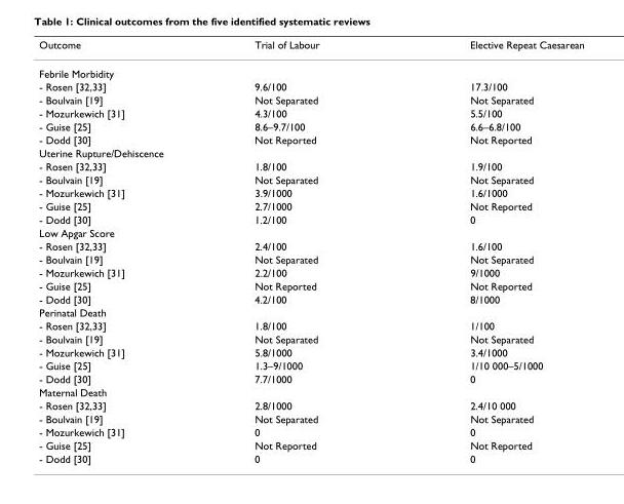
<table><thead><tr><td>Outcome</td><td>Trial of Labour</td><td>Elective Repeat Caesarean</td></tr></thead><tbody><tr><td colspan="3">Febrile Morbidity</td></tr><tr><td>- Rosen [32,33]</td><td>9.6/100</td><td>17.3/100</td></tr><tr><td>- Boulvain [19]</td><td>Not Separated</td><td>Not Separated</td></tr><tr><td>- Mozurkewich [31]</td><td>4.3/100</td><td>5.5/100</td></tr><tr><td>- Guise [25]</td><td>8.6–9.7/100</td><td>6.6–6.8/100</td></tr><tr><td>- Dodd [30]</td><td>Not Reported</td><td>Not Reported</td></tr><tr><td colspan="3">Uterine Rupture/Dehiscence</td></tr><tr><td>- Rosen [32,33]</td><td>1.8/100</td><td>1.9/100</td></tr><tr><td>- Boulvain [19]</td><td>Not Separated</td><td>Not Separated</td></tr><tr><td>- Mozurkewich [31]</td><td>3.9/1000</td><td>1.6/1000</td></tr><tr><td>- Guise [25]</td><td>2.7/1000</td><td>Not Reported</td></tr><tr><td>- Dodd [30]</td><td>1.2/100</td><td>0</td></tr><tr><td colspan="3">Low Apgar Score</td></tr><tr><td>- Rosen [32,33]</td><td>2.4/100</td><td>1.6/100</td></tr><tr><td>- Boulvain [19]</td><td>Not Separated</td><td>Not Separated</td></tr><tr><td>- Mozurkewich [31]</td><td>2.2/100</td><td>9/1000</td></tr><tr><td>- Guise [25]</td><td>Not Reported</td><td>Not Reported</td></tr><tr><td>- Dodd [30]</td><td>4.2/100</td><td>8/1000</td></tr><tr><td colspan="3">Perinatal Death</td></tr><tr><td>- Rosen [32,33]</td><td>1.8/100</td><td>1/100</td></tr><tr><td>- Boulvain [19]</td><td>Not Separated</td><td>Not Separated</td></tr><tr><td>- Mozurkewich [31]</td><td>5.8/1000</td><td>3.4/1000</td></tr><tr><td>- Guise [25]</td><td>1.3–9/1000</td><td>1/10 000–5/1000</td></tr><tr><td>- Dodd [30]</td><td>7.7/1000</td><td>0</td></tr><tr><td colspan="3">Maternal Death</td></tr><tr><td>- Rosen [32,33]</td><td>2.8/1000</td><td>2.4/10 000</td></tr><tr><td>- Boulvain [19]</td><td>Not Separated</td><td>Not Separated</td></tr><tr><td>- Mozurkewich [31]</td><td>0</td><td>0</td></tr><tr><td>- Guise [25]</td><td>Not Reported</td><td>Not Reported</td></tr><tr><td>- Dodd [30]</td><td>0</td><td>0</td></tr></tbody></table>